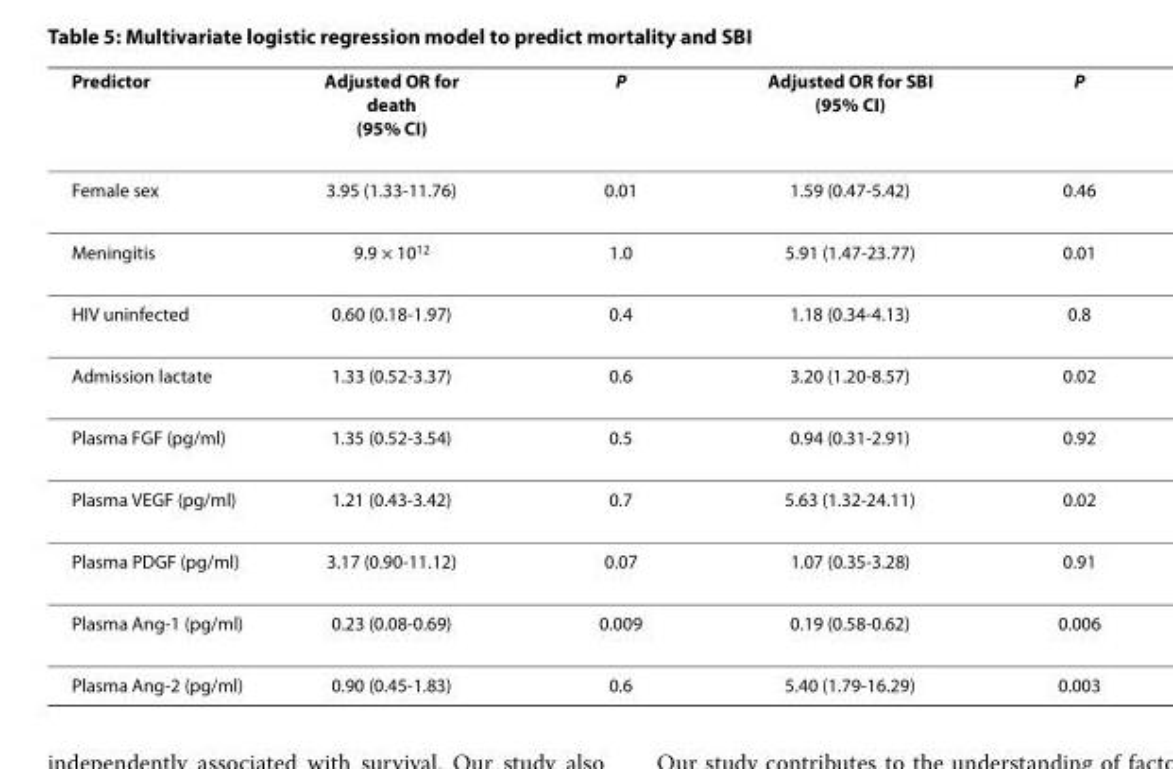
<table><thead><tr><td>Predictor</td><td>Adjusted OR for death (95% CI)</td><td>P</td><td>Adjusted OR for SBI (95% CI)</td><td>P</td></tr></thead><tbody><tr><td>Female sex</td><td>3.95 (1.33-11.76)</td><td>0.01</td><td>1.59 (0.47-5.42)</td><td>0.46</td></tr><tr><td>Meningitis</td><td>9.9 × 10<sup>12</sup></td><td>1.0</td><td>5.91 (1.47-23.77)</td><td>0.01</td></tr><tr><td>HIV uninfected</td><td>0.60 (0.18-1.97)</td><td>0.4</td><td>1.18 (0.34-4.13)</td><td>0.8</td></tr><tr><td>Admission lactate</td><td>1.33 (0.52-3.37)</td><td>0.6</td><td>3.20 (1.20-8.57)</td><td>0.02</td></tr><tr><td>Plasma FGF (pg/ml)</td><td>1.35 (0.52-3.54)</td><td>0.5</td><td>0.94 (0.31-2.91)</td><td>0.92</td></tr><tr><td>Plasma VEGF (pg/ml)</td><td>1.21 (0.43-3.42)</td><td>0.7</td><td>5.63 (1.32-24.11)</td><td>0.02</td></tr><tr><td>Plasma PDGF (pg/ml)</td><td>3.17 (0.90-11.12)</td><td>0.07</td><td>1.07 (0.35-3.28)</td><td>0.91</td></tr><tr><td>Plasma Ang-1 (pg/ml)</td><td>0.23 (0.08-0.69)</td><td>0.009</td><td>0.19 (0.58-0.62)</td><td>0.006</td></tr><tr><td>Plasma Ang-2 (pg/ml)</td><td>0.90 (0.45-1.83)</td><td>0.6</td><td>5.40 (1.79-16.29)</td><td>0.003</td></tr></tbody></table>